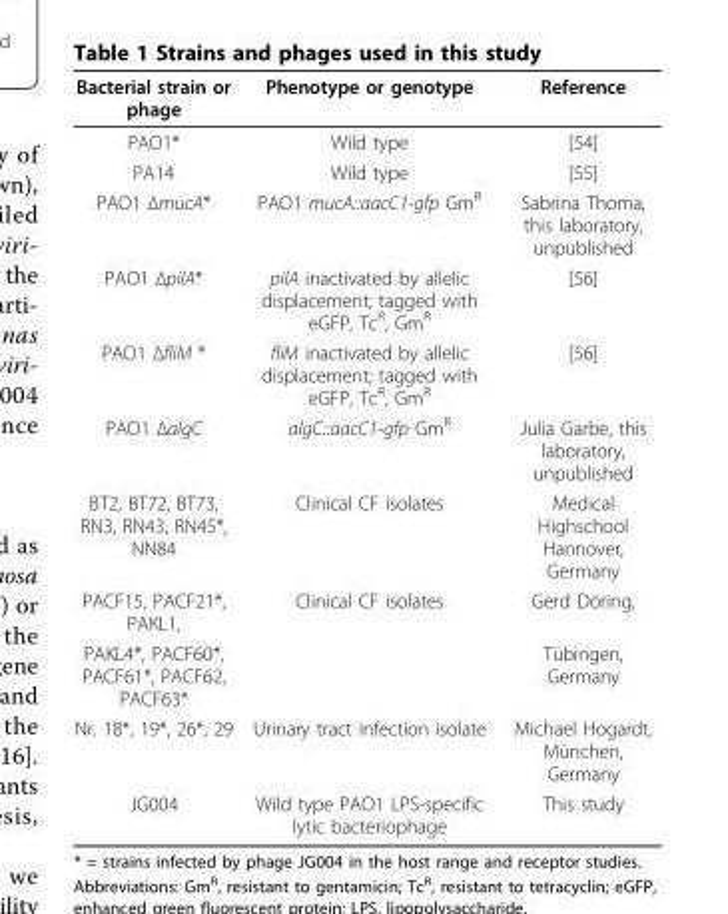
<table><thead><tr><td>Bacterial strain or phage</td><td>Phenotype or genotype</td><td>Reference</td></tr></thead><tbody><tr><td>PAO1*</td><td>Wild type</td><td>[54]</td></tr><tr><td>PA14</td><td>Wild type</td><td>[55]</td></tr><tr><td>PAO1 ΔmucA*</td><td>PAO1 mucA::aacC1-gfp Gm<sup>R</sup></td><td>Sabrina Thoma, this laboratory, unpublished</td></tr><tr><td>PAO1 ΔpilA*</td><td>pilA inactivated by allelic displacement; tagged with eGFP, Tc<sup>R</sup>, Gm<sup>R</sup></td><td>[56]</td></tr><tr><td>PAO1 ΔfliM *</td><td>fliM inactivated by allelic displacement; tagged with eGFP, Tc<sup>R</sup>, Gm<sup>R</sup></td><td>[56]</td></tr><tr><td>PAO1 ΔalgC</td><td>algC::aacC1-gfp Gm<sup>R</sup></td><td>Julia Garbe, this laboratory, unpublished</td></tr><tr><td>BT2, BT72, BT73, RN3, RN43, RN45*, NN84</td><td>Clinical CF isolates</td><td>Medical Highschool Hannover, Germany</td></tr><tr><td>PACF15, PACF21*, PAKL1,</td><td>Clinical CF isolates</td><td>Gerd Döring,</td></tr><tr><td>PAKL4*, PACF60*, PACF61*, PACF62, PACF63*</td><td></td><td>Tübingen, Germany</td></tr><tr><td>Nr. 18*, 19*, 26*, 29</td><td>Urinary tract infection isolate</td><td>Michael Hogardt, München, Germany</td></tr><tr><td>JG004</td><td>Wild type PAO1 LPS-specific lytic bacteriophage</td><td>This study</td></tr></tbody></table>